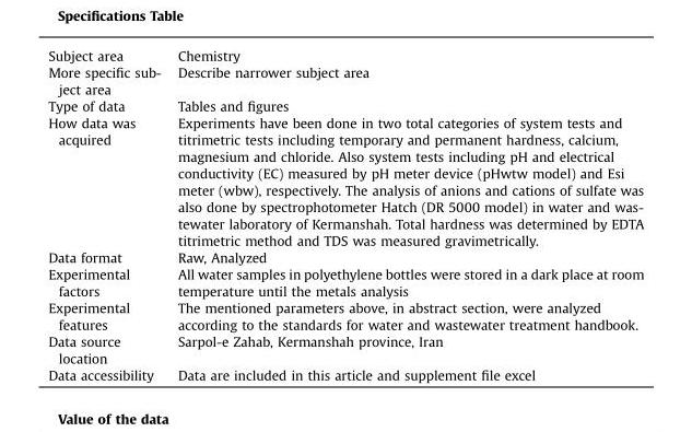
<table><tbody><tr><td>Subject area</td><td>Chemistry</td></tr><tr><td>More specific sub- ject area</td><td>Describe narrower subject area</td></tr><tr><td>Type of data</td><td>Tables and figures</td></tr><tr><td>How data was acquired</td><td>Experiments have been done in two total categories of system tests and titrimetric tests including temporary and permanent hardness, calcium, magnesium and chloride. Also system tests including pH and electrical conductivity (EC) measured by pH meter device (pHwtw model) and Esi meter (wbw), respectively. The analysis of anions and cations of sulfate was also done by spectrophotometer Hatch (DR 5000 model) in water and was- tewater laboratory of Kermanshah. Total hardness was determined by EDTA titrimetric method and TDS was measured gravimetrically.</td></tr><tr><td>Data format</td><td>Raw, Analyzed</td></tr><tr><td>Experimental factors</td><td>All water samples in polyethylene bottles were stored in a dark place at room temperature until the metals analysis</td></tr><tr><td>Experimental features</td><td>The mentioned parameters above, in abstract section, were analyzed according to the standards for water and wastewater treatment handbook.</td></tr><tr><td>Data source location</td><td>Sarpol-e Zahab, Kermanshah province, Iran</td></tr><tr><td>Data accessibility</td><td>Data are included in this article and supplement file excel</td></tr></tbody></table>